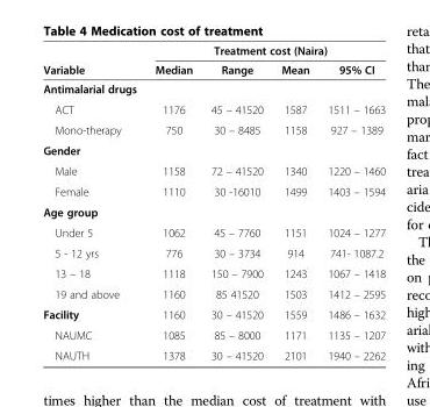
<table><thead><tr><td rowspan="2">Variable</td><td colspan="4">Treatment cost (Naira)</td></tr><tr><td>Median</td><td>Range</td><td>Mean</td><td>95% CI</td></tr></thead><tbody><tr><td colspan="5">Antimalarial drugs</td></tr><tr><td>ACT</td><td>1176</td><td>45 – 41520</td><td>1587</td><td>1511 – 1663</td></tr><tr><td>Mono-therapy</td><td>750</td><td>30 – 8485</td><td>1158</td><td>927 – 1389</td></tr><tr><td colspan="5">Gender</td></tr><tr><td>Male</td><td>1158</td><td>72 – 41520</td><td>1340</td><td>1220 – 1460</td></tr><tr><td>Female</td><td>1110</td><td>30 -16010</td><td>1499</td><td>1403 – 1594</td></tr><tr><td colspan="5">Age group</td></tr><tr><td>Under 5</td><td>1062</td><td>45 – 7760</td><td>1151</td><td>1024 – 1277</td></tr><tr><td>5 - 12 yrs</td><td>776</td><td>30 – 3734</td><td>914</td><td>741- 1087.2</td></tr><tr><td>13 – 18</td><td>1118</td><td>150 – 7900</td><td>1243</td><td>1067 – 1418</td></tr><tr><td>19 and above</td><td>1160</td><td>85 41520</td><td>1503</td><td>1412 – 2595</td></tr><tr><td>Facility</td><td>1160</td><td>30 – 41520</td><td>1559</td><td>1486 – 1632</td></tr><tr><td>NAUMC</td><td>1085</td><td>85 – 8000</td><td>1171</td><td>1135 – 1207</td></tr><tr><td>NAUTH</td><td>1378</td><td>30 – 41520</td><td>2101</td><td>1940 – 2262</td></tr></tbody></table>